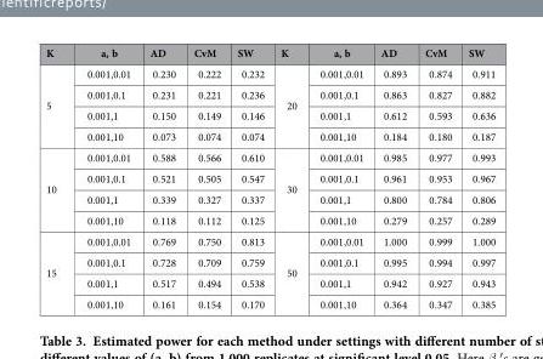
<table><thead><tr><td>K</td><td>a, b</td><td>AD</td><td>CvM</td><td>SW</td><td>K</td><td>a, b</td><td>AD</td><td>CvM</td><td>SW</td></tr></thead><tbody><tr><td rowspan="4">5</td><td>0.001,0.01</td><td>0.230</td><td>0.222</td><td>0.232</td><td rowspan="4">20</td><td>0.001,0.01</td><td>0.893</td><td>0.874</td><td>0.911</td></tr><tr><td>0.001,0.1</td><td>0.231</td><td>0.221</td><td>0.236</td><td>0.001,0.1</td><td>0.863</td><td>0.827</td><td>0.882</td></tr><tr><td>0.001,1</td><td>0.150</td><td>0.149</td><td>0.146</td><td>0.001,1</td><td>0.612</td><td>0.593</td><td>0.636</td></tr><tr><td>0.001,10</td><td>0.073</td><td>0.074</td><td>0.074</td><td>0.001,10</td><td>0.184</td><td>0.180</td><td>0.187</td></tr><tr><td rowspan="4">10</td><td>0.001,0.01</td><td>0.588</td><td>0.566</td><td>0.610</td><td rowspan="4">30</td><td>0.001,0.01</td><td>0.985</td><td>0.977</td><td>0.993</td></tr><tr><td>0.001,0.1</td><td>0.521</td><td>0.505</td><td>0.547</td><td>0.001,0.1</td><td>0.961</td><td>0.953</td><td>0.967</td></tr><tr><td>0.001,1</td><td>0.339</td><td>0.327</td><td>0.337</td><td>0.001,1</td><td>0.800</td><td>0.784</td><td>0.806</td></tr><tr><td>0.001,10</td><td>0.118</td><td>0.112</td><td>0.125</td><td>0.001,10</td><td>0.279</td><td>0.257</td><td>0.289</td></tr><tr><td rowspan="4">15</td><td>0.001,0.01</td><td>0.769</td><td>0.750</td><td>0.813</td><td rowspan="4">50</td><td>0.001,0.01</td><td>1.000</td><td>0.999</td><td>1.000</td></tr><tr><td>0.001,0.1</td><td>0.728</td><td>0.709</td><td>0.759</td><td>0.001,0.1</td><td>0.995</td><td>0.994</td><td>0.997</td></tr><tr><td>0.001,1</td><td>0.517</td><td>0.494</td><td>0.538</td><td>0.001,1</td><td>0.942</td><td>0.927</td><td>0.943</td></tr><tr><td>0.001,10</td><td>0.161</td><td>0.154</td><td>0.170</td><td>0.001,10</td><td>0.364</td><td>0.347</td><td>0.385</td></tr></tbody></table>